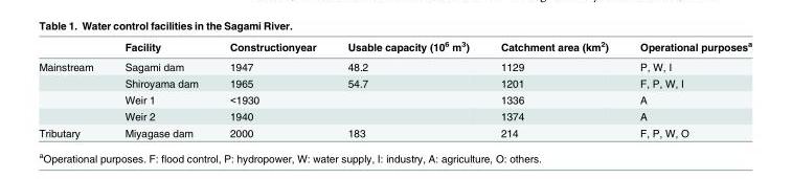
<table><thead><tr><td></td><td>Facility</td><td>Constructionyear</td><td>Usable capacity (10<sup>6</sup> m<sup>3</sup>)</td><td>Catchment area (km<sup>2</sup>)</td><td>Operational purposes<sup>a</sup></td></tr></thead><tbody><tr><td rowspan="4">Mainstream</td><td>Sagami dam</td><td>1947</td><td>48.2</td><td>1129</td><td>P, W, I</td></tr><tr><td>Shiroyama dam</td><td>1965</td><td>54.7</td><td>1201</td><td>F, P, W, I</td></tr><tr><td>Weir 1</td><td>&lt;1930</td><td></td><td>1336</td><td>A</td></tr><tr><td>Weir 2</td><td>1940</td><td></td><td>1374</td><td>A</td></tr><tr><td>Tributary</td><td>Miyagase dam</td><td>2000</td><td>183</td><td>214</td><td>F, P, W, O</td></tr></tbody></table>